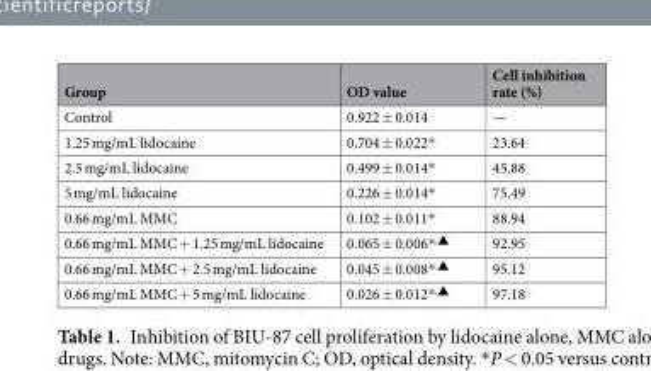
<table><thead><tr><td>Group</td><td>OD value</td><td>Cell inhibition rate (%)</td></tr></thead><tbody><tr><td>Control</td><td>0.922 ± 0.014</td><td>—</td></tr><tr><td>1.25 mg/mL lidocaine</td><td>0.704 ± 0.022*</td><td>23.64</td></tr><tr><td>2.5 mg/mL lidocaine</td><td>0.499 ± 0.014*</td><td>45.88</td></tr><tr><td>5 mg/mL lidocaine</td><td>0.226 ± 0.014*</td><td>75.49</td></tr><tr><td>0.66 mg/mL MMC</td><td>0.102 ± 0.011*</td><td>88.94</td></tr><tr><td>0.66 mg/mL MMC + 1.25 mg/mL lidocaine</td><td>0.065 ± 0.006*<sup>,▲</sup></td><td>92.95</td></tr><tr><td>0.66 mg/mL MMC + 2.5 mg/mL lidocaine</td><td>0.045 ± 0.008*<sup>,▲</sup></td><td>95.12</td></tr><tr><td>0.66 mg/mL MMC + 5 mg/mL lidocaine</td><td>0.026 ± 0.012*<sup>,▲</sup></td><td>97.18</td></tr></tbody></table>